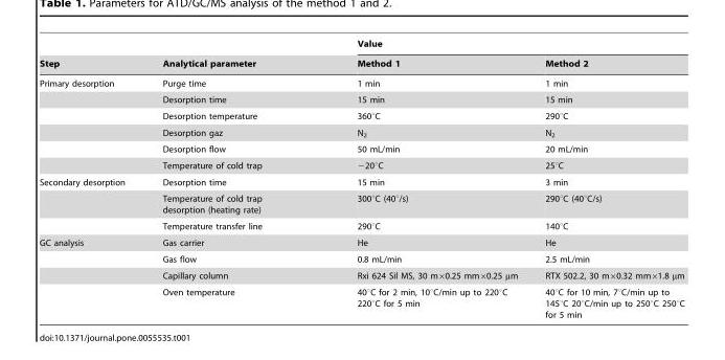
<table><thead><tr><td rowspan="2">Step</td><td rowspan="2">Analytical parameter</td><td colspan="2">Value</td></tr><tr><td>Method 1</td><td>Method 2</td></tr></thead><tbody><tr><td rowspan="6">Primary desorption</td><td>Purge time</td><td>1 min</td><td>1 min</td></tr><tr><td>Desorption time</td><td>15 min</td><td>15 min</td></tr><tr><td>Desorption temperature</td><td>360°C</td><td>290°C</td></tr><tr><td>Desorption gaz</td><td>N<sub>2</sub></td><td>N<sub>2</sub></td></tr><tr><td>Desorption flow</td><td>50 mL/min</td><td>20 mL/min</td></tr><tr><td>Temperature of cold trap</td><td>−20°C</td><td>25°C</td></tr><tr><td rowspan="3">Secondary desorption</td><td>Desorption time</td><td>15 min</td><td>3 min</td></tr><tr><td>Temperature of cold trap desorption (heating rate)</td><td>300°C (40°/s)</td><td>290°C (40°C/s)</td></tr><tr><td>Temperature transfer line</td><td>290°C</td><td>140°C</td></tr><tr><td rowspan="4">GC analysis</td><td>Gas carrier</td><td>He</td><td>He</td></tr><tr><td>Gas flow</td><td>0.8 mL/min</td><td>2.5 mL/min</td></tr><tr><td>Capillary column</td><td>Rxi 624 Sil MS, 30 m×0.25 mm×0.25 µm</td><td>RTX 502.2, 30 m×0.32 mm×1.8 µm</td></tr><tr><td>Oven temperature</td><td>40°C for 2 min, 10°C/min up to 220°C 220°C for 5 min</td><td>40°C for 10 min, 7°C/min up to 145°C 20°C/min up to 250°C 250°C for 5 min</td></tr></tbody></table>